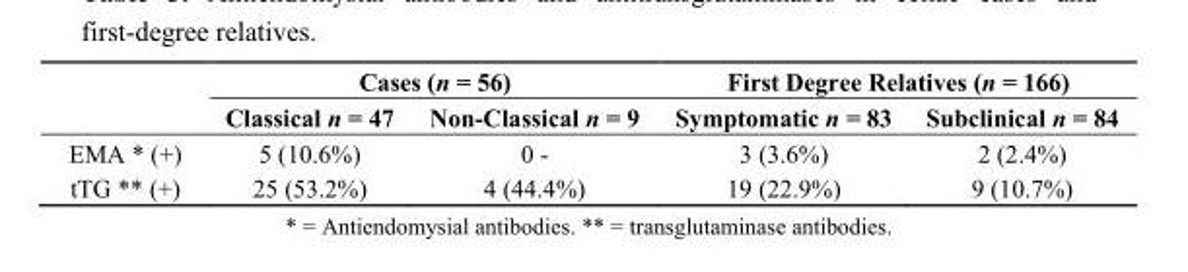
<table><thead><tr><td rowspan="2"></td><td colspan="2">Cases (n = 56)</td><td colspan="2">First Degree Relatives (n = 166)</td></tr><tr><td>Classical n = 47</td><td>Non-Classical n = 9</td><td>Symptomatic n = 83</td><td>Subclinical n = 84</td></tr></thead><tbody><tr><td>EMA * (+)</td><td>5 (10.6%)</td><td>0 -</td><td>3 (3.6%)</td><td>2 (2.4%)</td></tr><tr><td>tTG ** (+)</td><td>25 (53.2%)</td><td>4 (44.4%)</td><td>19 (22.9%)</td><td>9 (10.7%)</td></tr></tbody></table>